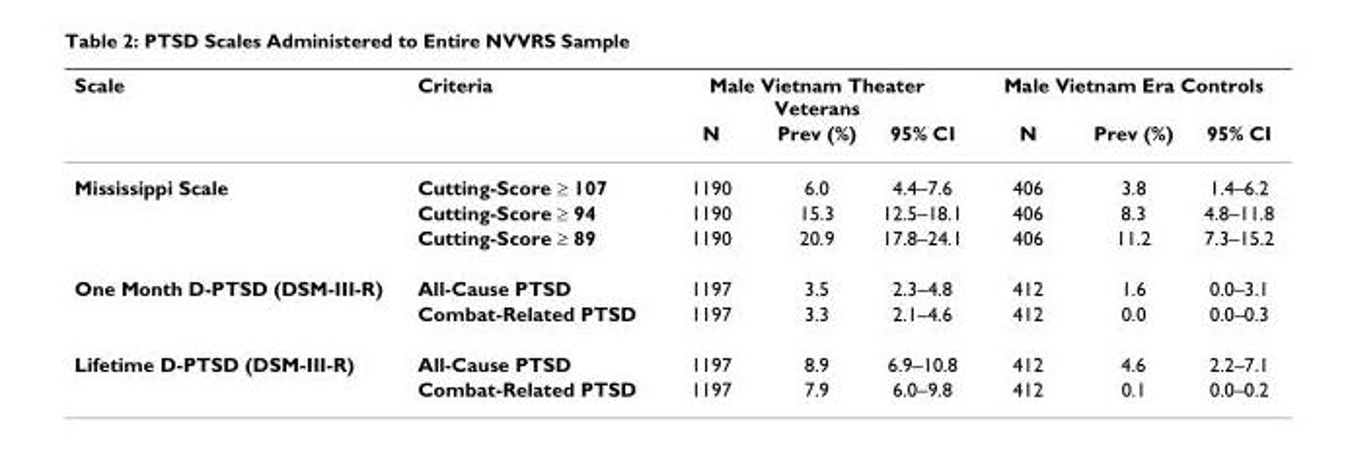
<table><thead><tr><td rowspan="2">Scale</td><td rowspan="2">Criteria</td><td colspan="3">Male Vietnam Theater Veterans</td><td colspan="3">Male Vietnam Era Controls</td></tr><tr><td>N</td><td>Prev (%)</td><td>95% CI</td><td>N</td><td>Prev (%)</td><td>95% CI</td></tr></thead><tbody><tr><td rowspan="3">Mississippi Scale</td><td>Cutting-Score ≥ 107</td><td>1190</td><td>6.0</td><td>4.4–7.6</td><td>406</td><td>3.8</td><td>1.4–6.2</td></tr><tr><td>Cutting-Score ≥ 94</td><td>1190</td><td>15.3</td><td>12.5–18.1</td><td>406</td><td>8.3</td><td>4.8–11.8</td></tr><tr><td>Cutting-Score ≥ 89</td><td>1190</td><td>20.9</td><td>17.8–24.1</td><td>406</td><td>11.2</td><td>7.3–15.2</td></tr><tr><td rowspan="2">One Month D-PTSD (DSM-III-R)</td><td>All-Cause PTSD</td><td>1197</td><td>3.5</td><td>2.3–4.8</td><td>412</td><td>1.6</td><td>0.0–3.1</td></tr><tr><td>Combat-Related PTSD</td><td>1197</td><td>3.3</td><td>2.1–4.6</td><td>412</td><td>0.0</td><td>0.0–0.3</td></tr><tr><td rowspan="2">Lifetime D-PTSD (DSM-III-R)</td><td>All-Cause PTSD</td><td>1197</td><td>8.9</td><td>6.9–10.8</td><td>412</td><td>4.6</td><td>2.2–7.1</td></tr><tr><td>Combat-Related PTSD</td><td>1197</td><td>7.9</td><td>6.0–9.8</td><td>412</td><td>0.1</td><td>0.0–0.2</td></tr></tbody></table>